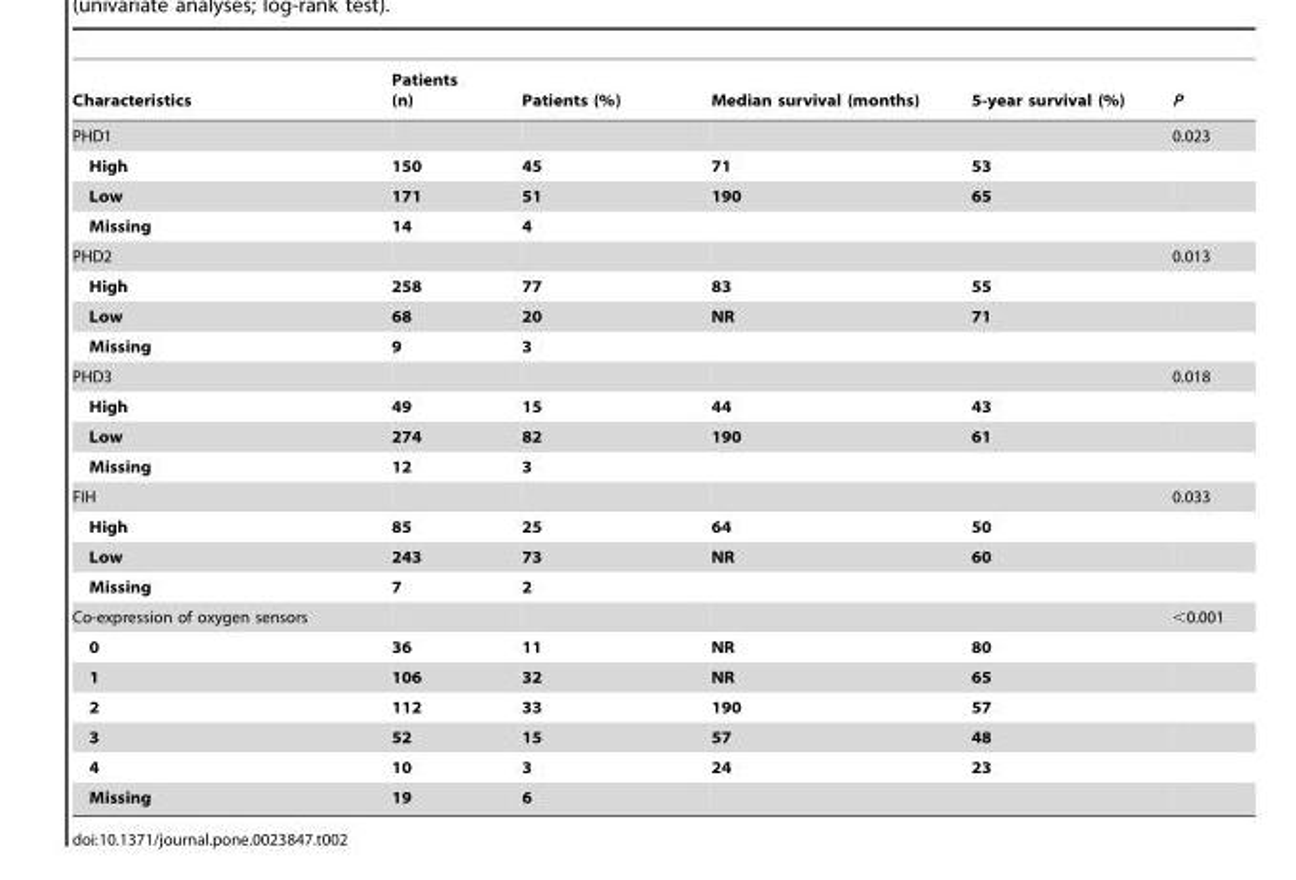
<table><thead><tr><td>Characteristics</td><td>Patients (n)</td><td>Patients (%)</td><td>Median survival (months)</td><td>5-year survival (%)</td><td>P</td></tr></thead><tbody><tr><td>PHD1</td><td></td><td></td><td></td><td></td><td>0.023</td></tr><tr><td>High</td><td>150</td><td>45</td><td>71</td><td>53</td><td></td></tr><tr><td>Low</td><td>171</td><td>51</td><td>190</td><td>65</td><td></td></tr><tr><td>Missing</td><td>14</td><td>4</td><td></td><td></td><td></td></tr><tr><td>PHD2</td><td></td><td></td><td></td><td></td><td>0.013</td></tr><tr><td>High</td><td>258</td><td>77</td><td>83</td><td>55</td><td></td></tr><tr><td>Low</td><td>68</td><td>20</td><td>NR</td><td>71</td><td></td></tr><tr><td>Missing</td><td>9</td><td>3</td><td></td><td></td><td></td></tr><tr><td>PHD3</td><td></td><td></td><td></td><td></td><td>0.018</td></tr><tr><td>High</td><td>49</td><td>15</td><td>44</td><td>43</td><td></td></tr><tr><td>Low</td><td>274</td><td>82</td><td>190</td><td>61</td><td></td></tr><tr><td>Missing</td><td>12</td><td>3</td><td></td><td></td><td></td></tr><tr><td>FIH</td><td></td><td></td><td></td><td></td><td>0.033</td></tr><tr><td>High</td><td>85</td><td>25</td><td>64</td><td>50</td><td></td></tr><tr><td>Low</td><td>243</td><td>73</td><td>NR</td><td>60</td><td></td></tr><tr><td>Missing</td><td>7</td><td>2</td><td></td><td></td><td></td></tr><tr><td>Co-expression of oxygen sensors</td><td></td><td></td><td></td><td></td><td>&lt;0.001</td></tr><tr><td>0</td><td>36</td><td>11</td><td>NR</td><td>80</td><td></td></tr><tr><td>1</td><td>106</td><td>32</td><td>NR</td><td>65</td><td></td></tr><tr><td>2</td><td>112</td><td>33</td><td>190</td><td>57</td><td></td></tr><tr><td>3</td><td>52</td><td>15</td><td>57</td><td>48</td><td></td></tr><tr><td>4</td><td>10</td><td>3</td><td>24</td><td>23</td><td></td></tr><tr><td>Missing</td><td>19</td><td>6</td><td></td><td></td><td></td></tr></tbody></table>